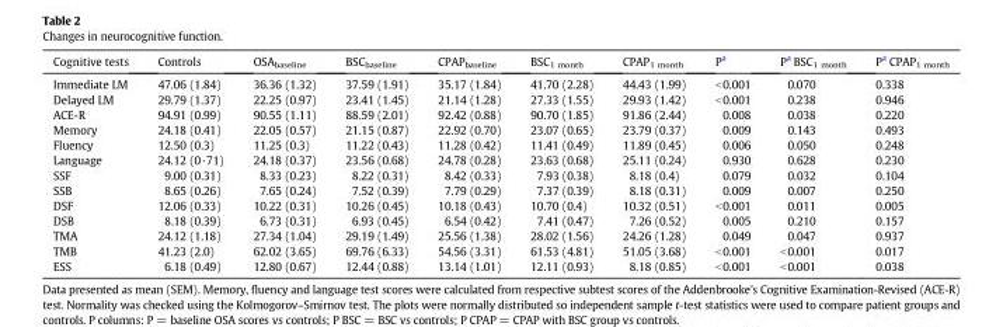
<table><thead><tr><td>Cognitive tests</td><td>Controls</td><td>OSA<sub>baseline</sub></td><td>BSC<sub>baseline</sub></td><td>CPAP<sub>baseline</sub></td><td>BSC<sub>1 month</sub></td><td>CPAP<sub>1 month</sub></td><td>P<sup>a</sup></td><td>P<sup>a</sup> BSC<sub>1 month</sub></td><td>P<sup>a</sup> CPAP<sub>1 month</sub></td></tr></thead><tbody><tr><td>Immediate LM</td><td>47.06 (1.84)</td><td>36.36 (1.32)</td><td>37.59 (1.91)</td><td>35.17 (1.84)</td><td>41.70 (2.28)</td><td>44.43 (1.99)</td><td>&lt;0.001</td><td>0.070</td><td>0.338</td></tr><tr><td>Delayed LM</td><td>29.79 (1.37)</td><td>22.25 (0.97)</td><td>23.41 (1.45)</td><td>21.14 (1.28)</td><td>27.33 (1.55)</td><td>29.93 (1.42)</td><td>&lt;0.001</td><td>0.238</td><td>0.946</td></tr><tr><td>ACE-R</td><td>94.91 (0.99)</td><td>90.55 (1.11)</td><td>88.59 (2.01)</td><td>92.42 (0.88)</td><td>90.70 (1.85)</td><td>91.86 (2.44)</td><td>0.008</td><td>0.038</td><td>0.220</td></tr><tr><td>Memory</td><td>24.18 (0.41)</td><td>22.05 (0.57)</td><td>21.15 (0.87)</td><td>22.92 (0.70)</td><td>23.07 (0.65)</td><td>23.79 (0.37)</td><td>0.009</td><td>0.143</td><td>0.493</td></tr><tr><td>Fluency</td><td>12.50 (0.3)</td><td>11.25 (0.3)</td><td>11.22 (0.43)</td><td>11.28 (0.42)</td><td>11.41 (0.49)</td><td>11.89 (0.45)</td><td>0.006</td><td>0.050</td><td>0.248</td></tr><tr><td>Language</td><td>24.12 (0·71)</td><td>24.18 (0.37)</td><td>23.56 (0.68)</td><td>24.78 (0.28)</td><td>23.63 (0.68)</td><td>25.11 (0.24)</td><td>0.930</td><td>0.628</td><td>0.230</td></tr><tr><td>SSF</td><td>9.00 (0.31)</td><td>8.33 (0.23)</td><td>8.22 (0.31)</td><td>8.42 (0.33)</td><td>7.93 (0.38)</td><td>8.18 (0.4)</td><td>0.079</td><td>0.032</td><td>0.104</td></tr><tr><td>SSB</td><td>8.65 (0.26)</td><td>7.65 (0.24)</td><td>7.52 (0.39)</td><td>7.79 (0.29)</td><td>7.37 (0.39)</td><td>8.18 (0.31)</td><td>0.009</td><td>0.007</td><td>0.250</td></tr><tr><td>DSF</td><td>12.06 (0.33)</td><td>10.22 (0.31)</td><td>10.26 (0.45)</td><td>10.18 (0.43)</td><td>10.70 (0.4)</td><td>10.32 (0.51)</td><td>&lt;0.001</td><td>0.011</td><td>0.005</td></tr><tr><td>DSB</td><td>8.18 (0.39)</td><td>6.73 (0.31)</td><td>6.93 (0.45)</td><td>6.54 (0.42)</td><td>7.41 (0.47)</td><td>7.26 (0.52)</td><td>0.005</td><td>0.210</td><td>0.157</td></tr><tr><td>TMA</td><td>24.12 (1.18)</td><td>27.34 (1.04)</td><td>29.19 (1.49)</td><td>25.56 (1.38)</td><td>28.02 (1.56)</td><td>24.26 (1.28)</td><td>0.049</td><td>0.047</td><td>0.937</td></tr><tr><td>TMB</td><td>41.23 (2.0)</td><td>62.02 (3.65)</td><td>69.76 (6.33)</td><td>54.56 (3.31)</td><td>61.53 (4.81)</td><td>51.05 (3.68)</td><td>&lt;0.001</td><td>&lt;0.001</td><td>0.017</td></tr><tr><td>ESS</td><td>6.18 (0.49)</td><td>12.80 (0.67)</td><td>12.44 (0.88)</td><td>13.14 (1.01)</td><td>12.11 (0.93)</td><td>8.18 (0.85)</td><td>&lt;0.001</td><td>&lt;0.001</td><td>0.038</td></tr></tbody></table>